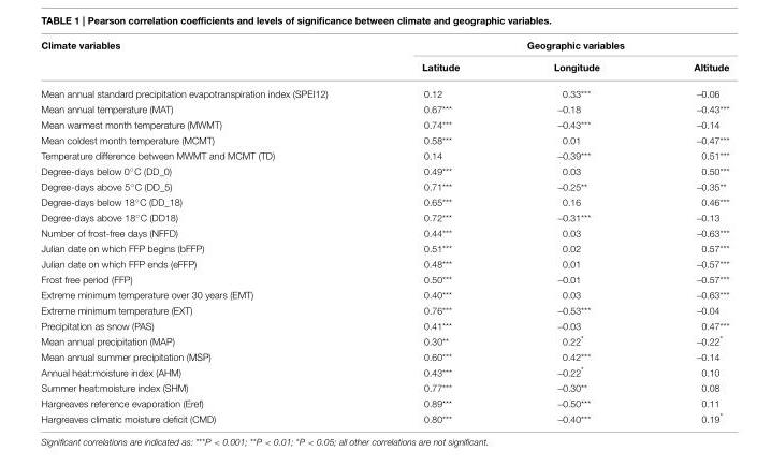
<table><thead><tr><td rowspan="2">Climate variables</td><td colspan="3">Geographic variables</td></tr><tr><td>Latitude</td><td>Longitude</td><td>Altitude</td></tr></thead><tbody><tr><td>Mean annual standard precipitation evapotranspiration index (SPEI12)</td><td>0.12</td><td>0.33***</td><td>−0.06</td></tr><tr><td>Mean annual temperature (MAT)</td><td>0.67***</td><td>−0.18</td><td>−0.43***</td></tr><tr><td>Mean warmest month temperature (MWMT)</td><td>0.74***</td><td>−0.43***</td><td>−0.14</td></tr><tr><td>Mean coldest month temperature (MCMT)</td><td>0.58***</td><td>0.01</td><td>−0.47***</td></tr><tr><td>Temperature difference between MWMT and MCMT (TD)</td><td>0.14</td><td>−0.39***</td><td>0.51***</td></tr><tr><td>Degree-days below 0◦C (DD_0)</td><td>0.49***</td><td>0.03</td><td>0.50***</td></tr><tr><td>Degree-days above 5◦C (DD_5)</td><td>0.71***</td><td>−0.25**</td><td>−0.35**</td></tr><tr><td>Degree-days below 18◦C (DD_18)</td><td>0.65***</td><td>0.16</td><td>0.46***</td></tr><tr><td>Degree-days above 18◦C (DD18)</td><td>0.72***</td><td>−0.31***</td><td>−0.13</td></tr><tr><td>Number of frost-free days (NFFD)</td><td>0.44***</td><td>0.03</td><td>−0.63***</td></tr><tr><td>Julian date on which FFP begins (bFFP)</td><td>0.51***</td><td>0.02</td><td>0.57***</td></tr><tr><td>Julian date on which FFP ends (eFFP)</td><td>0.48***</td><td>0.01</td><td>−0.57***</td></tr><tr><td>Frost free period (FFP)</td><td>0.50***</td><td>−0.01</td><td>−0.57***</td></tr><tr><td>Extreme minimum temperature over 30 years (EMT)</td><td>0.40***</td><td>0.03</td><td>−0.63***</td></tr><tr><td>Extreme minimum temperature (EXT)</td><td>0.76***</td><td>−0.53***</td><td>−0.04</td></tr><tr><td>Precipitation as snow (PAS)</td><td>0.41***</td><td>−0.03</td><td>0.47***</td></tr><tr><td>Mean annual precipitation (MAP)</td><td>0.30**</td><td>0.22*</td><td>−0.22*</td></tr><tr><td>Mean annual summer precipitation (MSP)</td><td>0.60***</td><td>0.42***</td><td>−0.14</td></tr><tr><td>Annual heat:moisture index (AHM)</td><td>0.43***</td><td>−0.22*</td><td>0.10</td></tr><tr><td>Summer heat:moisture index (SHM)</td><td>0.77***</td><td>−0.30**</td><td>0.08</td></tr><tr><td>Hargreaves reference evaporation (Eref)</td><td>0.89***</td><td>−0.50***</td><td>0.11</td></tr><tr><td>Hargreaves climatic moisture deficit (CMD)</td><td>0.80***</td><td>−0.40***</td><td>0.19*</td></tr></tbody></table>